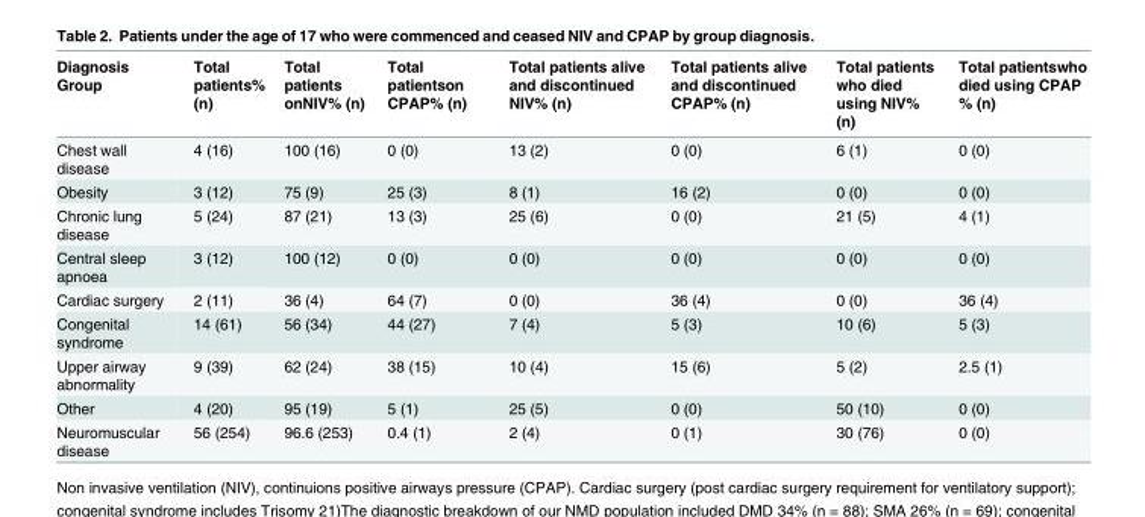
<table><thead><tr><td>Diagnosis Group</td><td>Total patients% (n)</td><td>Total patients onNIV% (n)</td><td>Total patientson CPAP% (n)</td><td>Total patients alive and discontinued NIV% (n)</td><td>Total patients alive and discontinued CPAP% (n)</td><td>Total patients who died using NIV% (n)</td><td>Total patientswho died using CPAP % (n)</td></tr></thead><tbody><tr><td>Chest wall disease</td><td>4 (16)</td><td>100 (16)</td><td>0 (0)</td><td>13 (2)</td><td>0 (0)</td><td>6 (1)</td><td>0 (0)</td></tr><tr><td>Obesity</td><td>3 (12)</td><td>75 (9)</td><td>25 (3)</td><td>8 (1)</td><td>16 (2)</td><td>0 (0)</td><td>0 (0)</td></tr><tr><td>Chronic lung disease</td><td>5 (24)</td><td>87 (21)</td><td>13 (3)</td><td>25 (6)</td><td>0 (0)</td><td>21 (5)</td><td>4 (1)</td></tr><tr><td>Central sleep apnoea</td><td>3 (12)</td><td>100 (12)</td><td>0 (0)</td><td>0 (0)</td><td>0 (0)</td><td>0 (0)</td><td>0 (0)</td></tr><tr><td>Cardiac surgery</td><td>2 (11)</td><td>36 (4)</td><td>64 (7)</td><td>0 (0)</td><td>36 (4)</td><td>0 (0)</td><td>36 (4)</td></tr><tr><td>Congenital syndrome</td><td>14 (61)</td><td>56 (34)</td><td>44 (27)</td><td>7 (4)</td><td>5 (3)</td><td>10 (6)</td><td>5 (3)</td></tr><tr><td>Upper airway abnormality</td><td>9 (39)</td><td>62 (24)</td><td>38 (15)</td><td>10 (4)</td><td>15 (6)</td><td>5 (2)</td><td>2.5 (1)</td></tr><tr><td>Other</td><td>4 (20)</td><td>95 (19)</td><td>5 (1)</td><td>25 (5)</td><td>0 (0)</td><td>50 (10)</td><td>0 (0)</td></tr><tr><td>Neuromuscular disease</td><td>56 (254)</td><td>96.6 (253)</td><td>0.4 (1)</td><td>2 (4)</td><td>0 (1)</td><td>30 (76)</td><td>0 (0)</td></tr></tbody></table>